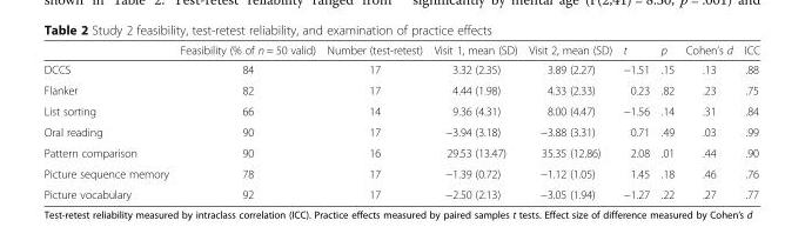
<table><thead><tr><td></td><td>Feasibility (% of n = 50 valid)</td><td>Number (test-retest)</td><td>Visit 1, mean (SD)</td><td>Visit 2, mean (SD)</td><td>t</td><td>p</td><td>Cohen’s d</td><td>ICC</td></tr></thead><tbody><tr><td>DCCS</td><td>84</td><td>17</td><td>3.32 (2.35)</td><td>3.89 (2.27)</td><td>−1.51</td><td>.15</td><td>.13</td><td>.88</td></tr><tr><td>Flanker</td><td>82</td><td>17</td><td>4.44 (1.98)</td><td>4.33 (2.33)</td><td>0.23</td><td>.82</td><td>.23</td><td>.75</td></tr><tr><td>List sorting</td><td>66</td><td>14</td><td>9.36 (4.31)</td><td>8.00 (4.47)</td><td>−1.56</td><td>.14</td><td>.31</td><td>.84</td></tr><tr><td>Oral reading</td><td>90</td><td>17</td><td>−3.94 (3.18)</td><td>−3.88 (3.31)</td><td>0.71</td><td>.49</td><td>.03</td><td>.99</td></tr><tr><td>Pattern comparison</td><td>90</td><td>16</td><td>29.53 (13.47)</td><td>35.35 (12.86)</td><td>2.08</td><td>.01</td><td>.44</td><td>.90</td></tr><tr><td>Picture sequence memory</td><td>78</td><td>17</td><td>−1.39 (0.72)</td><td>−1.12 (1.05)</td><td>1.45</td><td>.18</td><td>.46</td><td>.76</td></tr><tr><td>Picture vocabulary</td><td>92</td><td>17</td><td>−2.50 (2.13)</td><td>−3.05 (1.94)</td><td>−1.27</td><td>.22</td><td>.27</td><td>.77</td></tr></tbody></table>